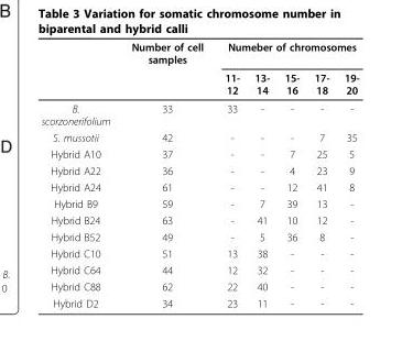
<table><thead><tr><td rowspan="2"></td><td rowspan="2">Number of cell samples</td><td colspan="5">Numeber of chromosomes</td></tr><tr><td>11- 12</td><td>13- 14</td><td>15- 16</td><td>17- 18</td><td>19- 20</td></tr></thead><tbody><tr><td>B. scorzonerifolium</td><td>33</td><td>33</td><td>-</td><td>-</td><td>-</td><td>-</td></tr><tr><td>S. mussotii</td><td>42</td><td>-</td><td>-</td><td>-</td><td>7</td><td>35</td></tr><tr><td>Hybrid A10</td><td>37</td><td>-</td><td>-</td><td>7</td><td>25</td><td>5</td></tr><tr><td>Hybrid A22</td><td>36</td><td>-</td><td>-</td><td>4</td><td>23</td><td>9</td></tr><tr><td>Hybrid A24</td><td>61</td><td>-</td><td>-</td><td>12</td><td>41</td><td>8</td></tr><tr><td>Hybrid B9</td><td>59</td><td>-</td><td>7</td><td>39</td><td>13</td><td>-</td></tr><tr><td>Hybrid B24</td><td>63</td><td>-</td><td>41</td><td>10</td><td>12</td><td>-</td></tr><tr><td>Hybrid B52</td><td>49</td><td>-</td><td>5</td><td>36</td><td>8</td><td>-</td></tr><tr><td>Hybrid C10</td><td>51</td><td>13</td><td>38</td><td>-</td><td>-</td><td>-</td></tr><tr><td>Hybrid C64</td><td>44</td><td>12</td><td>32</td><td>-</td><td>-</td><td>-</td></tr><tr><td>Hybrid C88</td><td>62</td><td>22</td><td>40</td><td>-</td><td>-</td><td>-</td></tr><tr><td>Hybrid D2</td><td>34</td><td>23</td><td>11</td><td>-</td><td>-</td><td>-</td></tr></tbody></table>